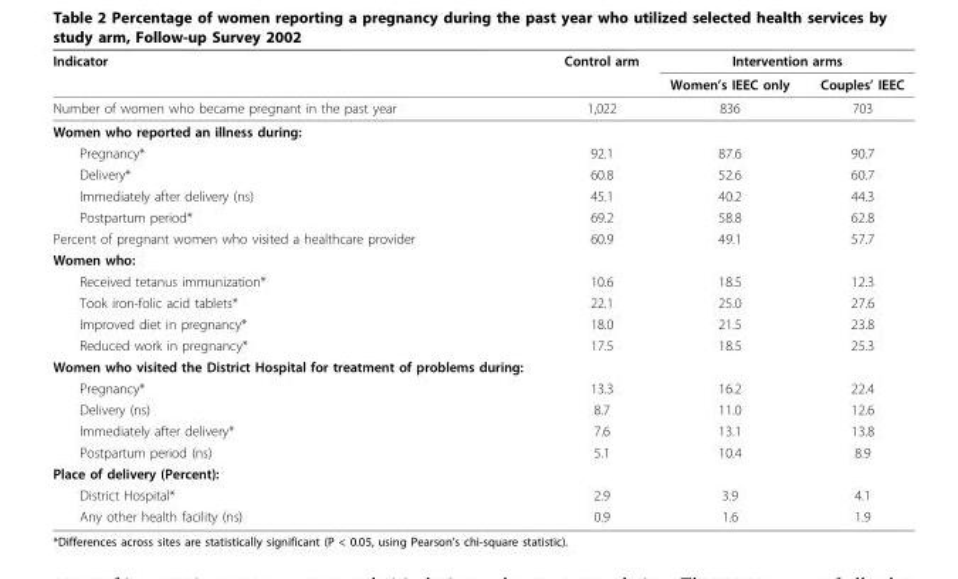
<table><thead><tr><td rowspan="2">Indicator</td><td rowspan="2">Control arm</td><td colspan="2">Intervention arms</td></tr><tr><td>Women’s IEEC only</td><td>Couples’ IEEC</td></tr></thead><tbody><tr><td>Number of women who became pregnant in the past year</td><td>1,022</td><td>836</td><td>703</td></tr><tr><td colspan="4">Women who reported an illness during:</td></tr><tr><td>Pregnancy*</td><td>92.1</td><td>87.6</td><td>90.7</td></tr><tr><td>Delivery*</td><td>60.8</td><td>52.6</td><td>60.7</td></tr><tr><td>Immediately after delivery (ns)</td><td>45.1</td><td>40.2</td><td>44.3</td></tr><tr><td>Postpartum period*</td><td>69.2</td><td>58.8</td><td>62.8</td></tr><tr><td>Percent of pregnant women who visited a healthcare provider</td><td>60.9</td><td>49.1</td><td>57.7</td></tr><tr><td colspan="4">Women who:</td></tr><tr><td>Received tetanus immunization*</td><td>10.6</td><td>18.5</td><td>12.3</td></tr><tr><td>Took iron-folic acid tablets*</td><td>22.1</td><td>25.0</td><td>27.6</td></tr><tr><td>Improved diet in pregnancy*</td><td>18.0</td><td>21.5</td><td>23.8</td></tr><tr><td>Reduced work in pregnancy*</td><td>17.5</td><td>18.5</td><td>25.3</td></tr><tr><td colspan="4">Women who visited the District Hospital for treatment of problems during:</td></tr><tr><td>Pregnancy*</td><td>13.3</td><td>16.2</td><td>22.4</td></tr><tr><td>Delivery (ns)</td><td>8.7</td><td>11.0</td><td>12.6</td></tr><tr><td>Immediately after delivery*</td><td>7.6</td><td>13.1</td><td>13.8</td></tr><tr><td>Postpartum period (ns)</td><td>5.1</td><td>10.4</td><td>8.9</td></tr><tr><td colspan="4">Place of delivery (Percent):</td></tr><tr><td>District Hospital*</td><td>2.9</td><td>3.9</td><td>4.1</td></tr><tr><td>Any other health facility (ns)</td><td>0.9</td><td>1.6</td><td>1.9</td></tr></tbody></table>